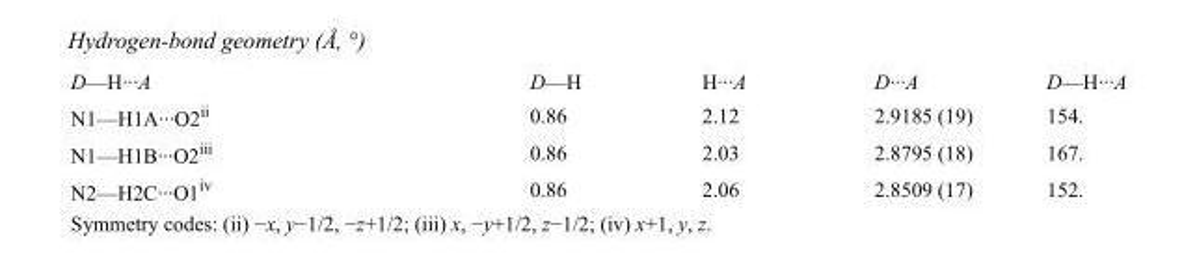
<table><tbody><tr><td>D—H···A</td><td>D—H</td><td>H···A</td><td>D···A</td><td>D—H···A</td></tr><tr><td>N1—H1A···O2<sup>ii</sup></td><td>0.86</td><td>2.12</td><td>2.9185 (19)</td><td>154.</td></tr><tr><td>N1—H1B···O2<sup>iii</sup></td><td>0.86</td><td>2.03</td><td>2.8795 (18)</td><td>167.</td></tr><tr><td>N2—H2C···O1<sup>iv</sup></td><td>0.86</td><td>2.06</td><td>2.8509 (17)</td><td>152.</td></tr></tbody></table>